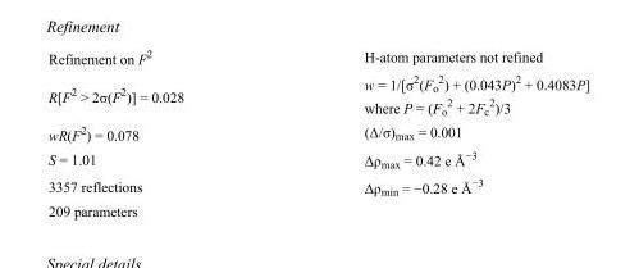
<table><tbody><tr><td>Refinement on F<sup>2</sup></td><td>H-atom parameters not refined</td></tr><tr><td>R[F<sup>2</sup> &gt; 2σ(F<sup>2</sup>)] = 0.028</td><td>w = 1/[σ<sup>2</sup>(F<sub>o</sub> <sup>2</sup>) + (0.043P)<sup>2</sup> + 0.4083P] where P = (F<sub>o</sub> <sup>2</sup> + 2F<sub>c</sub> <sup>2</sup>)/3</td></tr><tr><td>wR(F<sup>2</sup>) = 0.078</td><td>(Δ/σ)<sub>max</sub> = 0.001</td></tr><tr><td>S = 1.01</td><td>Δρ<sub>max</sub> = 0.42 e Å<sup>−3</sup></td></tr><tr><td>3357 reflections</td><td>Δρ<sub>min</sub> = −0.28 e Å<sup>−3</sup></td></tr><tr><td>209 parameters</td><td></td></tr></tbody></table>